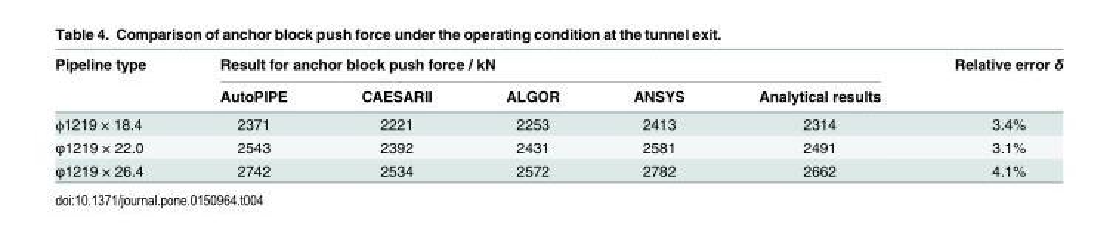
<table><thead><tr><td rowspan="2">Pipeline type</td><td colspan="5">Result for anchor block push force / kN</td><td rowspan="2">Relative error δ</td></tr><tr><td>AutoPIPE</td><td>CAESARII</td><td>ALGOR</td><td>ANSYS</td><td>Analytical results</td></tr></thead><tbody><tr><td>ϕ1219 × 18.4</td><td>2371</td><td>2221</td><td>2253</td><td>2413</td><td>2314</td><td>3.4%</td></tr><tr><td>φ1219 × 22.0</td><td>2543</td><td>2392</td><td>2431</td><td>2581</td><td>2491</td><td>3.1%</td></tr><tr><td>φ1219 × 26.4</td><td>2742</td><td>2534</td><td>2572</td><td>2782</td><td>2662</td><td>4.1%</td></tr></tbody></table>